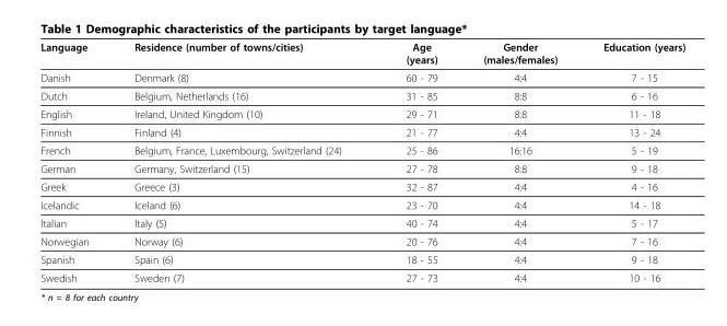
<table><thead><tr><td>Language</td><td>Residence (number of towns/cities)</td><td>Age (years)</td><td>Gender (males/females)</td><td>Education (years)</td></tr></thead><tbody><tr><td>Danish</td><td>Denmark (8)</td><td>60 - 79</td><td>4:4</td><td>7 - 15</td></tr><tr><td>Dutch</td><td>Belgium, Netherlands (16)</td><td>31 - 85</td><td>8:8</td><td>6 - 16</td></tr><tr><td>English</td><td>Ireland, United Kingdom (10)</td><td>29 - 71</td><td>8:8</td><td>11 - 18</td></tr><tr><td>Finnish</td><td>Finland (4)</td><td>21 - 77</td><td>4:4</td><td>13 - 24</td></tr><tr><td>French</td><td>Belgium, France, Luxembourg, Switzerland (24)</td><td>25 - 86</td><td>16:16</td><td>5 - 19</td></tr><tr><td>German</td><td>Germany, Switzerland (15)</td><td>27 - 78</td><td>8:8</td><td>9 - 18</td></tr><tr><td>Greek</td><td>Greece (3)</td><td>32 - 87</td><td>4:4</td><td>4 - 16</td></tr><tr><td>Icelandic</td><td>Iceland (6)</td><td>23 - 70</td><td>4:4</td><td>14 - 18</td></tr><tr><td>Italian</td><td>Italy (5)</td><td>40 - 74</td><td>4:4</td><td>5 - 17</td></tr><tr><td>Norwegian</td><td>Norway (6)</td><td>20 - 76</td><td>4:4</td><td>7 - 16</td></tr><tr><td>Spanish</td><td>Spain (6)</td><td>18 - 55</td><td>4:4</td><td>9 - 18</td></tr><tr><td>Swedish</td><td>Sweden (7)</td><td>27 - 73</td><td>4:4</td><td>10 - 16</td></tr></tbody></table>